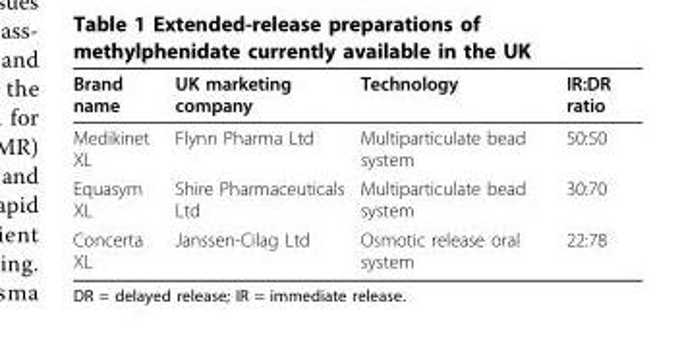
<table><thead><tr><td>Brand name</td><td>UK marketing company</td><td>Technology</td><td>IR:DR ratio</td></tr></thead><tbody><tr><td>Medikinet XL</td><td>Flynn Pharma Ltd</td><td>Multiparticulate bead system</td><td>50:50</td></tr><tr><td>Equasym XL</td><td>Shire Pharmaceuticals Ltd</td><td>Multiparticulate bead system</td><td>30:70</td></tr><tr><td>Concerta XL</td><td>Janssen-Cilag Ltd</td><td>Osmotic release oral system</td><td>22:78</td></tr></tbody></table>